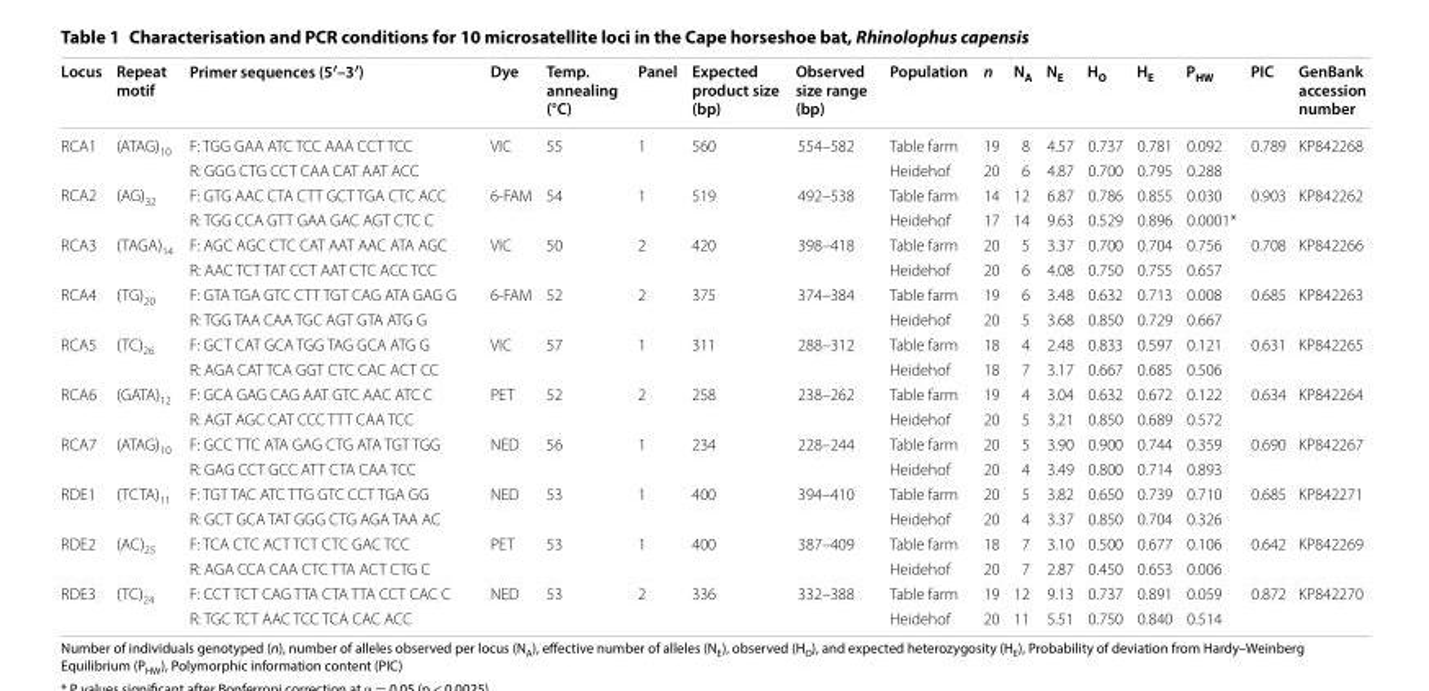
<table><thead><tr><td>Locus</td><td>Repeat motif</td><td>Primer sequences (5′–3′)</td><td>Dye</td><td>Temp. annealing (°C)</td><td>Panel</td><td>Expected product size (bp)</td><td>Observed size range (bp)</td><td>Population</td><td>n</td><td>N<sub>A</sub></td><td>N<sub>E</sub></td><td>H<sub>O</sub></td><td>H<sub>E</sub></td><td>P<sub>HW</sub></td><td>PIC</td><td>GenBank accession number</td></tr></thead><tbody><tr><td rowspan="2">RCA1</td><td>(ATAG)<sub>10</sub></td><td>F: TGG GAA ATC TCC AAA CCT TCC</td><td>VIC</td><td>55</td><td>1</td><td>560</td><td>554–582</td><td>Table farm</td><td>19</td><td>8</td><td>4.57</td><td>0.737</td><td>0.781</td><td>0.092</td><td>0.789</td><td>KP842268</td></tr><tr><td></td><td>R: GGG CTG CCT CAA CAT AAT ACC</td><td></td><td></td><td></td><td></td><td></td><td>Heidehof</td><td>20</td><td>6</td><td>4.87</td><td>0.700</td><td>0.795</td><td>0.288</td><td></td><td></td></tr><tr><td rowspan="2">RCA2</td><td>(AG)<sub>32</sub></td><td>F: GTG AAC CTA CTT GCT TGA CTC ACC</td><td>6-FAM</td><td>54</td><td>1</td><td>519</td><td>492–538</td><td>Table farm</td><td>14</td><td>12</td><td>6.87</td><td>0.786</td><td>0.855</td><td>0.030</td><td>0.903</td><td>KP842262</td></tr><tr><td></td><td>R: TGG CCA GTT GAA GAC AGT CTC C</td><td></td><td></td><td></td><td></td><td></td><td>Heidehof</td><td>17</td><td>14</td><td>9.63</td><td>0.529</td><td>0.896</td><td>0.0001*</td><td></td><td></td></tr><tr><td rowspan="2">RCA3</td><td>(TAGA)<sub>14</sub></td><td>F: AGC AGC CTC CAT AAT AAC ATA AGC</td><td>VIC</td><td>50</td><td>2</td><td>420</td><td>398–418</td><td>Table farm</td><td>20</td><td>5</td><td>3.37</td><td>0.700</td><td>0.704</td><td>0.756</td><td>0.708</td><td>KP842266</td></tr><tr><td></td><td>R: AAC TCT TAT CCT AAT CTC ACC TCC</td><td></td><td></td><td></td><td></td><td></td><td>Heidehof</td><td>20</td><td>6</td><td>4.08</td><td>0.750</td><td>0.755</td><td>0.657</td><td></td><td></td></tr><tr><td rowspan="2">RCA4</td><td>(TG)<sub>20</sub></td><td>F: GTA TGA GTC CTT TGT CAG ATA GAG G</td><td>6-FAM</td><td>52</td><td>2</td><td>375</td><td>374–384</td><td>Table farm</td><td>19</td><td>6</td><td>3.48</td><td>0.632</td><td>0.713</td><td>0.008</td><td>0.685</td><td>KP842263</td></tr><tr><td></td><td>R: TGG TAA CAA TGC AGT GTA ATG G</td><td></td><td></td><td></td><td></td><td></td><td>Heidehof</td><td>20</td><td>5</td><td>3.68</td><td>0.850</td><td>0.729</td><td>0.667</td><td></td><td></td></tr><tr><td rowspan="2">RCA5</td><td>(TC)<sub>26</sub></td><td>F: GCT CAT GCA TGG TAG GCA ATG G</td><td>VIC</td><td>57</td><td>1</td><td>311</td><td>288–312</td><td>Table farm</td><td>18</td><td>4</td><td>2.48</td><td>0.833</td><td>0.597</td><td>0.121</td><td>0.631</td><td>KP842265</td></tr><tr><td></td><td>R: AGA CAT TCA GGT CTC CAC ACT CC</td><td></td><td></td><td></td><td></td><td></td><td>Heidehof</td><td>18</td><td>7</td><td>3.17</td><td>0.667</td><td>0.685</td><td>0.506</td><td></td><td></td></tr><tr><td rowspan="2">RCA6</td><td>(GATA)<sub>12</sub></td><td>F: GCA GAG CAG AAT GTC AAC ATC C</td><td>PET</td><td>52</td><td>2</td><td>258</td><td>238–262</td><td>Table farm</td><td>19</td><td>4</td><td>3.04</td><td>0.632</td><td>0.672</td><td>0.122</td><td>0.634</td><td>KP842264</td></tr><tr><td></td><td>R: AGT AGC CAT CCC TTT CAA TCC</td><td></td><td></td><td></td><td></td><td></td><td>Heidehof</td><td>20</td><td>5</td><td>3.21</td><td>0.850</td><td>0.689</td><td>0.572</td><td></td><td></td></tr><tr><td rowspan="2">RCA7</td><td>(ATAG)<sub>10</sub></td><td>F: GCC TTC ATA GAG CTG ATA TGT TGG</td><td>NED</td><td>56</td><td>1</td><td>234</td><td>228–244</td><td>Table farm</td><td>20</td><td>5</td><td>3.90</td><td>0.900</td><td>0.744</td><td>0.359</td><td>0.690</td><td>KP842267</td></tr><tr><td></td><td>R: GAG CCT GCC ATT CTA CAA TCC</td><td></td><td></td><td></td><td></td><td></td><td>Heidehof</td><td>20</td><td>4</td><td>3.49</td><td>0.800</td><td>0.714</td><td>0.893</td><td></td><td></td></tr><tr><td rowspan="2">RDE1</td><td>(TCTA)<sub>11</sub></td><td>F: TGT TAC ATC TTG GTC CCT TGA GG</td><td>NED</td><td>53</td><td>1</td><td>400</td><td>394–410</td><td>Table farm</td><td>20</td><td>5</td><td>3.82</td><td>0.650</td><td>0.739</td><td>0.710</td><td>0.685</td><td>KP842271</td></tr><tr><td></td><td>R: GCT GCA TAT GGG CTG AGA TAA AC</td><td></td><td></td><td></td><td></td><td></td><td>Heidehof</td><td>20</td><td>4</td><td>3.37</td><td>0.850</td><td>0.704</td><td>0.326</td><td></td><td></td></tr><tr><td rowspan="2">RDE2</td><td>(AC)<sub>25</sub></td><td>F: TCA CTC ACT TCT CTC GAC TCC</td><td>PET</td><td>53</td><td>1</td><td>400</td><td>387–409</td><td>Table farm</td><td>18</td><td>7</td><td>3.10</td><td>0.500</td><td>0.677</td><td>0.106</td><td>0.642</td><td>KP842269</td></tr><tr><td></td><td>R: AGA CCA CAA CTC TTA ACT CTG C</td><td></td><td></td><td></td><td></td><td></td><td>Heidehof</td><td>20</td><td>7</td><td>2.87</td><td>0.450</td><td>0.653</td><td>0.006</td><td></td><td></td></tr><tr><td rowspan="2">RDE3</td><td>(TC)<sub>24</sub></td><td>F: CCT TCT CAG TTA CTA TTA CCT CAC C</td><td>NED</td><td>53</td><td>2</td><td>336</td><td>332–388</td><td>Table farm</td><td>19</td><td>12</td><td>9.13</td><td>0.737</td><td>0.891</td><td>0.059</td><td>0.872</td><td>KP842270</td></tr><tr><td></td><td>R: TGC TCT AAC TCC TCA CAC ACC</td><td></td><td></td><td></td><td></td><td></td><td>Heidehof</td><td>20</td><td>11</td><td>5.51</td><td>0.750</td><td>0.840</td><td>0.514</td><td></td><td></td></tr></tbody></table>